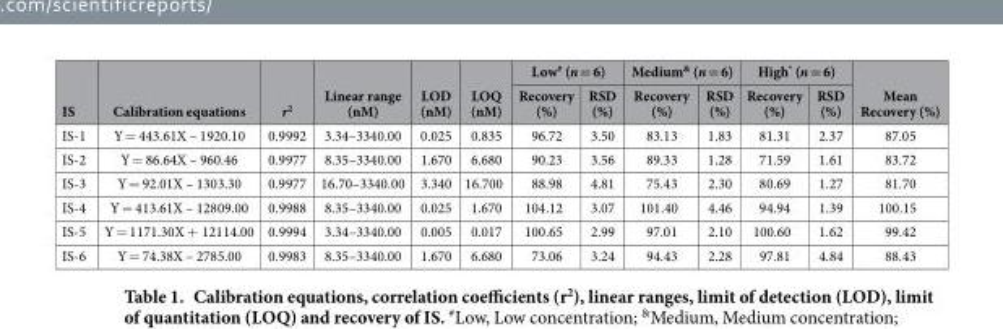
<table><thead><tr><td rowspan="2">IS</td><td rowspan="2">Calibration equations</td><td rowspan="2">r<sup>2</sup></td><td rowspan="2">Linear range (nM)</td><td rowspan="2">LOD (nM)</td><td rowspan="2">LOQ (nM)</td><td colspan="2">Low<sup>#</sup> (n = 6)</td><td colspan="2">Medium<sup>&amp;</sup> (n = 6)</td><td colspan="2">High* (n = 6)</td><td rowspan="2">Mean Recovery (%)</td></tr><tr><td>Recovery (%)</td><td>RSD (%)</td><td>Recovery (%)</td><td>RSD (%)</td><td>Recovery (%)</td><td>RSD (%)</td></tr></thead><tbody><tr><td>IS-1</td><td>Y = 443.61X – 1920.10</td><td>0.9992</td><td>3.34–3340.00</td><td>0.025</td><td>0.835</td><td>96.72</td><td>3.50</td><td>83.13</td><td>1.83</td><td>81.31</td><td>2.37</td><td>87.05</td></tr><tr><td>IS-2</td><td>Y = 86.64X – 960.46</td><td>0.9977</td><td>8.35–3340.00</td><td>1.670</td><td>6.680</td><td>90.23</td><td>3.56</td><td>89.33</td><td>1.28</td><td>71.59</td><td>1.61</td><td>83.72</td></tr><tr><td>IS-3</td><td>Y = 92.01X – 1303.30</td><td>0.9977</td><td>16.70–3340.00</td><td>3.340</td><td>16.700</td><td>88.98</td><td>4.81</td><td>75.43</td><td>2.30</td><td>80.69</td><td>1.27</td><td>81.70</td></tr><tr><td>IS-4</td><td>Y = 413.61X – 12809.00</td><td>0.9988</td><td>8.35–3340.00</td><td>0.025</td><td>1.670</td><td>104.12</td><td>3.07</td><td>101.40</td><td>4.46</td><td>94.94</td><td>1.39</td><td>100.15</td></tr><tr><td>IS-5</td><td>Y = 1171.30X + 12114.00</td><td>0.9994</td><td>3.34–3340.00</td><td>0.005</td><td>0.017</td><td>100.65</td><td>2.99</td><td>97.01</td><td>2.10</td><td>100.60</td><td>1.62</td><td>99.42</td></tr><tr><td>IS-6</td><td>Y = 74.38X – 2785.00</td><td>0.9983</td><td>8.35–3340.00</td><td>1.670</td><td>6.680</td><td>73.06</td><td>3.24</td><td>94.43</td><td>2.28</td><td>97.81</td><td>4.84</td><td>88.43</td></tr></tbody></table>